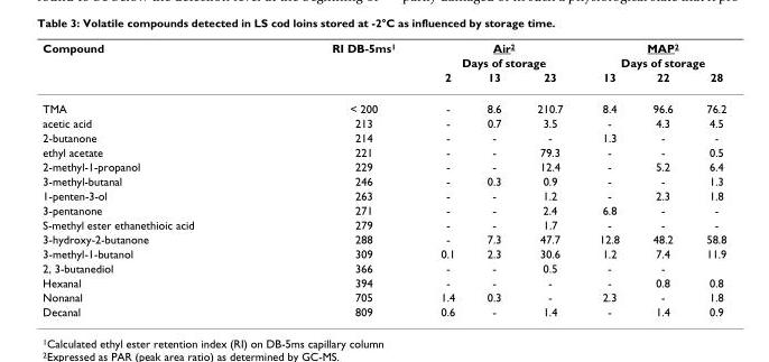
<table><thead><tr><td rowspan="3">Compound</td><td rowspan="3">RI DB-5ms<sup>1</sup></td><td rowspan="2" colspan="3">Air<sup>2</sup> Days of storage</td><td rowspan="2" colspan="3">MAP<sup>2</sup> Days of storage</td></tr><tr></tr><tr><td>2</td><td>13</td><td>23</td><td>13</td><td>22</td><td>28</td></tr></thead><tbody><tr><td>TMA</td><td>&lt; 200</td><td>-</td><td>8.6</td><td>210.7</td><td>8.4</td><td>96.6</td><td>76.2</td></tr><tr><td>acetic acid</td><td>213</td><td>-</td><td>0.7</td><td>3.5</td><td>-</td><td>4.3</td><td>4.5</td></tr><tr><td>2-butanone</td><td>214</td><td>-</td><td>-</td><td>-</td><td>1.3</td><td>-</td><td>-</td></tr><tr><td>ethyl acetate</td><td>221</td><td>-</td><td>-</td><td>79.3</td><td>-</td><td>-</td><td>0.5</td></tr><tr><td>2-methyl-1-propanol</td><td>229</td><td>-</td><td>-</td><td>12.4</td><td>-</td><td>5.2</td><td>6.4</td></tr><tr><td>3-methyl-butanal</td><td>246</td><td>-</td><td>0.3</td><td>0.9</td><td>-</td><td>-</td><td>1.3</td></tr><tr><td>1-penten-3-ol</td><td>263</td><td>-</td><td>-</td><td>1.2</td><td>-</td><td>2.3</td><td>1.8</td></tr><tr><td>3-pentanone</td><td>271</td><td>-</td><td>-</td><td>2.4</td><td>6.8</td><td>-</td><td>-</td></tr><tr><td>S-methyl ester ethanethioic acid</td><td>279</td><td>-</td><td>-</td><td>1.7</td><td>-</td><td>-</td><td>-</td></tr><tr><td>3-hydroxy-2-butanone</td><td>288</td><td>-</td><td>7.3</td><td>47.7</td><td>12.8</td><td>48.2</td><td>58.8</td></tr><tr><td>3-methyl-1-butanol</td><td>309</td><td>0.1</td><td>2.3</td><td>30.6</td><td>1.2</td><td>7.4</td><td>11.9</td></tr><tr><td>2, 3-butanediol</td><td>366</td><td>-</td><td>-</td><td>0.5</td><td>-</td><td>-</td><td></td></tr><tr><td>Hexanal</td><td>394</td><td>-</td><td>-</td><td>-</td><td>-</td><td>0.8</td><td>0.8</td></tr><tr><td>Nonanal</td><td>705</td><td>1.4</td><td>0.3</td><td>-</td><td>2.3</td><td>-</td><td>1.8</td></tr><tr><td>Decanal</td><td>809</td><td>0.6</td><td>-</td><td>1.4</td><td>-</td><td>1.4</td><td>0.9</td></tr></tbody></table>